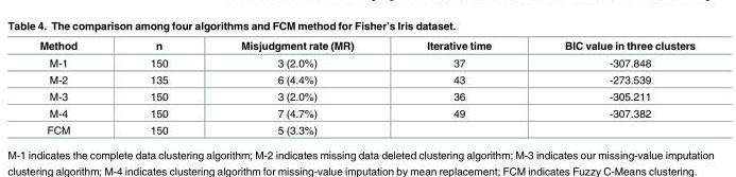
<table><thead><tr><td>Method</td><td>n</td><td>Misjudgment rate (MR)</td><td>Iterative time</td><td>BIC value in three clusters</td></tr></thead><tbody><tr><td>M-1</td><td>150</td><td>3 (2.0%)</td><td>37</td><td>-307.848</td></tr><tr><td>M-2</td><td>135</td><td>6 (4.4%)</td><td>43</td><td>-273.539</td></tr><tr><td>M-3</td><td>150</td><td>3 (2.0%)</td><td>36</td><td>-305.211</td></tr><tr><td>M-4</td><td>150</td><td>7 (4.7%)</td><td>49</td><td>-307.382</td></tr><tr><td>FCM</td><td>150</td><td>5 (3.3%)</td><td></td><td></td></tr></tbody></table>